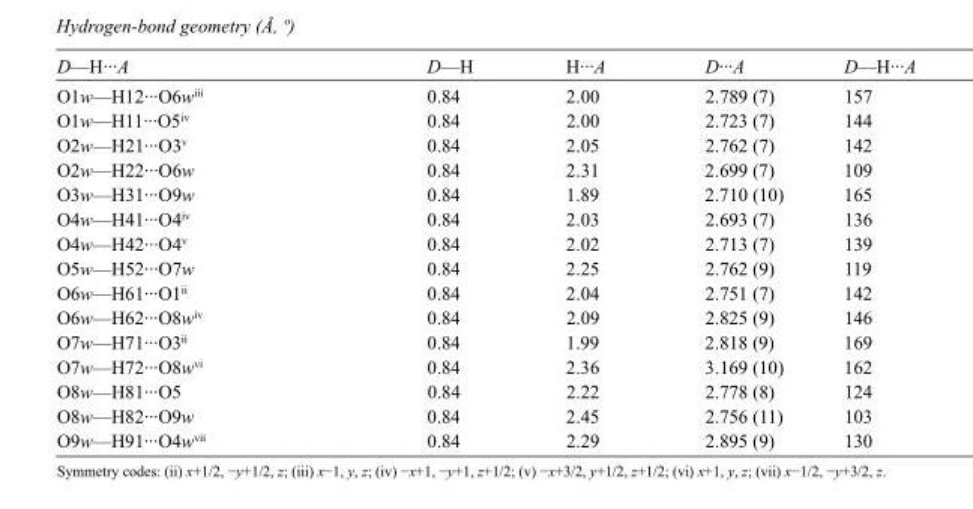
<table><tbody><tr><td>D—H···A</td><td>D—H</td><td>H···A</td><td>D···A</td><td>D—H···A</td></tr><tr><td>O1w—H12···O6w<sup>iii</sup></td><td>0.84</td><td>2.00</td><td>2.789 (7)</td><td>157</td></tr><tr><td>O1w—H11···O5<sup>iv</sup></td><td>0.84</td><td>2.00</td><td>2.723 (7)</td><td>144</td></tr><tr><td>O2w—H21···O3<sup>v</sup></td><td>0.84</td><td>2.05</td><td>2.762 (7)</td><td>142</td></tr><tr><td>O2w—H22···O6w</td><td>0.84</td><td>2.31</td><td>2.699 (7)</td><td>109</td></tr><tr><td>O3w—H31···O9w</td><td>0.84</td><td>1.89</td><td>2.710 (10)</td><td>165</td></tr><tr><td>O4w—H41···O4<sup>iv</sup></td><td>0.84</td><td>2.03</td><td>2.693 (7)</td><td>136</td></tr><tr><td>O4w—H42···O4<sup>v</sup></td><td>0.84</td><td>2.02</td><td>2.713 (7)</td><td>139</td></tr><tr><td>O5w—H52···O7w</td><td>0.84</td><td>2.25</td><td>2.762 (9)</td><td>119</td></tr><tr><td>O6w—H61···O1<sup>ii</sup></td><td>0.84</td><td>2.04</td><td>2.751 (7)</td><td>142</td></tr><tr><td>O6w—H62···O8w<sup>iv</sup></td><td>0.84</td><td>2.09</td><td>2.825 (9)</td><td>146</td></tr><tr><td>O7w—H71···O3<sup>ii</sup></td><td>0.84</td><td>1.99</td><td>2.818 (9)</td><td>169</td></tr><tr><td>O7w—H72···O8w<sup>vi</sup></td><td>0.84</td><td>2.36</td><td>3.169 (10)</td><td>162</td></tr><tr><td>O8w—H81···O5</td><td>0.84</td><td>2.22</td><td>2.778 (8)</td><td>124</td></tr><tr><td>O8w—H82···O9w</td><td>0.84</td><td>2.45</td><td>2.756 (11)</td><td>103</td></tr><tr><td>O9w—H91···O4w<sup>vii</sup></td><td>0.84</td><td>2.29</td><td>2.895 (9)</td><td>130</td></tr></tbody></table>